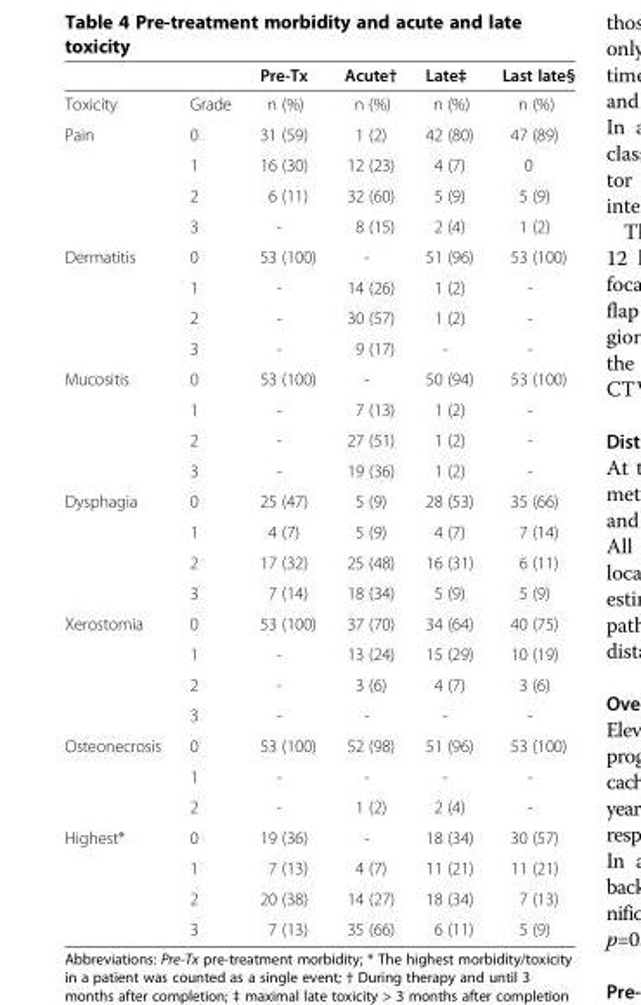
<table><thead><tr><td></td><td></td><td>Pre-Tx</td><td>Acute†</td><td>Late‡</td><td>Last late§</td></tr></thead><tbody><tr><td>Toxicity</td><td>Grade</td><td>n (%)</td><td>n (%)</td><td>n (%)</td><td>n (%)</td></tr><tr><td rowspan="4">Pain</td><td>0</td><td>31 (59)</td><td>1 (2)</td><td>42 (80)</td><td>47 (89)</td></tr><tr><td>1</td><td>16 (30)</td><td>12 (23)</td><td>4 (7)</td><td>0</td></tr><tr><td>2</td><td>6 (11)</td><td>32 (60)</td><td>5 (9)</td><td>5 (9)</td></tr><tr><td>3</td><td>-</td><td>8 (15)</td><td>2 (4)</td><td>1 (2)</td></tr><tr><td rowspan="4">Dermatitis</td><td>0</td><td>53 (100)</td><td>-</td><td>51 (96)</td><td>53 (100)</td></tr><tr><td>1</td><td>-</td><td>14 (26)</td><td>1 (2)</td><td>-</td></tr><tr><td>2</td><td>-</td><td>30 (57)</td><td>1 (2)</td><td>-</td></tr><tr><td>3</td><td>-</td><td>9 (17)</td><td>-</td><td>-</td></tr><tr><td rowspan="4">Mucositis</td><td>0</td><td>53 (100)</td><td>-</td><td>50 (94)</td><td>53 (100)</td></tr><tr><td>1</td><td>-</td><td>7 (13)</td><td>1 (2)</td><td>-</td></tr><tr><td>2</td><td>-</td><td>27 (51)</td><td>1 (2)</td><td>-</td></tr><tr><td>3</td><td>-</td><td>19 (36)</td><td>1 (2)</td><td>-</td></tr><tr><td rowspan="4">Dysphagia</td><td>0</td><td>25 (47)</td><td>5 (9)</td><td>28 (53)</td><td>35 (66)</td></tr><tr><td>1</td><td>4 (7)</td><td>5 (9)</td><td>4 (7)</td><td>7 (14)</td></tr><tr><td>2</td><td>17 (32)</td><td>25 (48)</td><td>16 (31)</td><td>6 (11)</td></tr><tr><td>3</td><td>7 (14)</td><td>18 (34)</td><td>5 (9)</td><td>5 (9)</td></tr><tr><td rowspan="4">Xerostomia</td><td>0</td><td>53 (100)</td><td>37 (70)</td><td>34 (64)</td><td>40 (75)</td></tr><tr><td>1</td><td>-</td><td>13 (24)</td><td>15 (29)</td><td>10 (19)</td></tr><tr><td>2</td><td>-</td><td>3 (6)</td><td>4 (7)</td><td>3 (6)</td></tr><tr><td>3</td><td>-</td><td>-</td><td>-</td><td>-</td></tr><tr><td rowspan="3">Osteonecrosis</td><td>0</td><td>53 (100)</td><td>52 (98)</td><td>51 (96)</td><td>53 (100)</td></tr><tr><td>1</td><td>-</td><td>-</td><td>-</td><td>-</td></tr><tr><td>2</td><td>-</td><td>1 (2)</td><td>2 (4)</td><td>-</td></tr><tr><td rowspan="4">Highest*</td><td>0</td><td>19 (36)</td><td>-</td><td>18 (34)</td><td>30 (57)</td></tr><tr><td>1</td><td>7 (13)</td><td>4 (7)</td><td>11 (21)</td><td>11 (21)</td></tr><tr><td>2</td><td>20 (38)</td><td>14 (27)</td><td>18 (34)</td><td>7 (13)</td></tr><tr><td>3</td><td>7 (13)</td><td>35 (66)</td><td>6 (11)</td><td>5 (9)</td></tr></tbody></table>